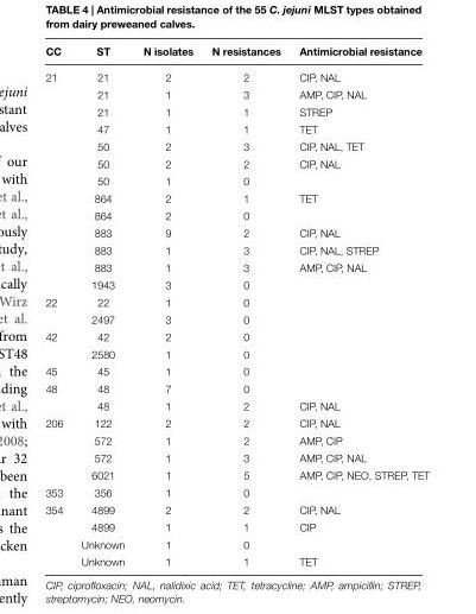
<table><thead><tr><td>CC</td><td>ST</td><td>N isolates</td><td>N resistances</td><td>Antimicrobial resistance</td></tr></thead><tbody><tr><td rowspan="13">21</td><td>21</td><td>2</td><td>2</td><td>CIP, NAL</td></tr><tr><td>21</td><td>1</td><td>3</td><td>AMP, CIP, NAL</td></tr><tr><td>21</td><td>1</td><td>1</td><td>STREP</td></tr><tr><td>47</td><td>1</td><td>1</td><td>TET</td></tr><tr><td>50</td><td>2</td><td>3</td><td>CIP, NAL, TET</td></tr><tr><td>50</td><td>2</td><td>2</td><td>CIP, NAL</td></tr><tr><td>50</td><td>1</td><td>0</td><td></td></tr><tr><td>864</td><td>2</td><td>1</td><td>TET</td></tr><tr><td>864</td><td>2</td><td>0</td><td></td></tr><tr><td>883</td><td>9</td><td>2</td><td>CIP, NAL</td></tr><tr><td>883</td><td>1</td><td>3</td><td>CIP, NAL, STREP</td></tr><tr><td>883</td><td>1</td><td>3</td><td>AMP, CIP, NAL</td></tr><tr><td>1943</td><td>3</td><td>0</td><td></td></tr><tr><td rowspan="2">22</td><td>22</td><td>1</td><td>0</td><td></td></tr><tr><td>2497</td><td>3</td><td>0</td><td></td></tr><tr><td rowspan="2">42</td><td>42</td><td>2</td><td>0</td><td></td></tr><tr><td>2580</td><td>1</td><td>0</td><td></td></tr><tr><td>45</td><td>45</td><td>1</td><td>0</td><td></td></tr><tr><td rowspan="2">48</td><td>48</td><td>7</td><td>0</td><td></td></tr><tr><td>48</td><td>1</td><td>2</td><td>CIP, NAL</td></tr><tr><td rowspan="4">206</td><td>122</td><td>2</td><td>2</td><td>CIP, NAL</td></tr><tr><td>572</td><td>1</td><td>2</td><td>AMP, CIP</td></tr><tr><td>572</td><td>1</td><td>3</td><td>AMP, CIP, NAL</td></tr><tr><td>6021</td><td>1</td><td>5</td><td>AMP, CIP, NEO, STREP, TET</td></tr><tr><td>353</td><td>356</td><td>1</td><td>0</td><td></td></tr><tr><td rowspan="4">354</td><td>4899</td><td>2</td><td>2</td><td>CIP, NAL</td></tr><tr><td>4899</td><td>1</td><td>1</td><td>CIP</td></tr><tr><td>Unknown</td><td>1</td><td>0</td><td></td></tr><tr><td>Unknown</td><td>1</td><td>1</td><td>TET</td></tr></tbody></table>